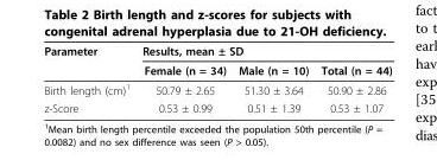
<table><thead><tr><td rowspan="2">Parameter</td><td colspan="3">Results, mean ± SD</td></tr><tr><td>Female (n = 34)</td><td>Male (n = 10)</td><td>Total (n = 44)</td></tr></thead><tbody><tr><td>Birth length (cm)<sup>1</sup></td><td>50.79 ± 2.65</td><td>51.30 ± 3.64</td><td>50.90 ± 2.86</td></tr><tr><td>z-Score</td><td>0.53 ± 0.99</td><td>0.51 ± 1.39</td><td>0.53 ± 1.07</td></tr></tbody></table>